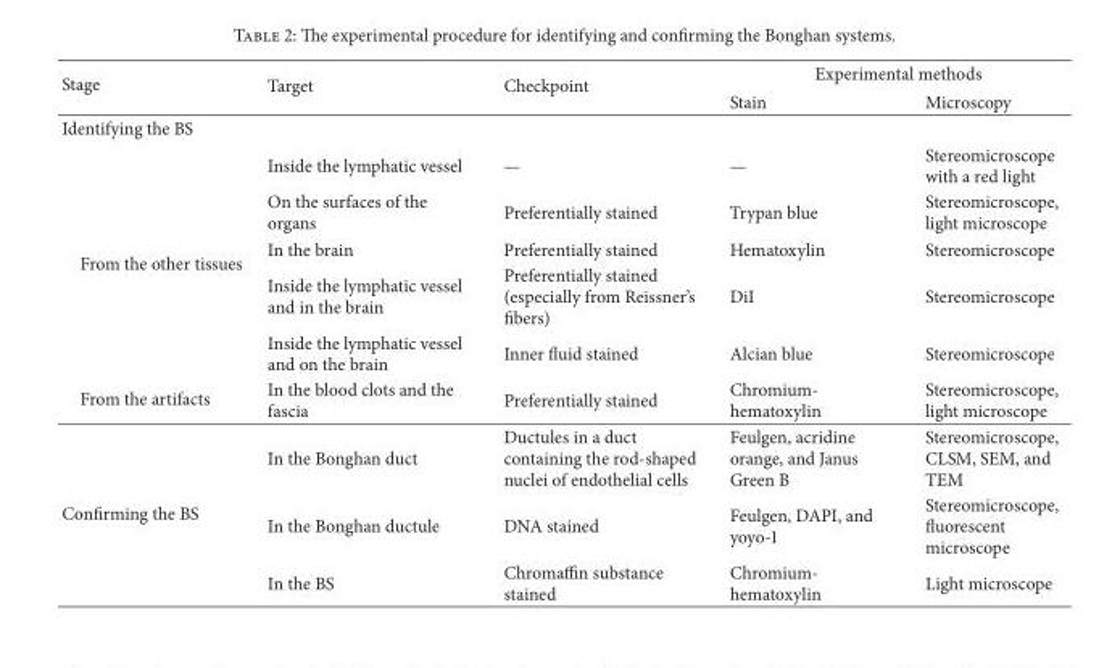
<table><thead><tr><td rowspan="2">Stage</td><td rowspan="2">Target</td><td rowspan="2">Checkpoint</td><td colspan="2">Experimental methods</td></tr><tr><td>Stain</td><td>Microscopy</td></tr></thead><tbody><tr><td colspan="5">Identifying the BS</td></tr><tr><td rowspan="5">From the other tissues</td><td>Inside the lymphatic vessel</td><td>—</td><td>—</td><td>Stereomicroscope with a red light</td></tr><tr><td>On the surfaces of the organs</td><td>Preferentially stained</td><td>Trypan blue</td><td>Stereomicroscope, light microscope</td></tr><tr><td>In the brain</td><td>Preferentially stained</td><td>Hematoxylin</td><td>Stereomicroscope</td></tr><tr><td>Inside the lymphatic vessel and in the brain</td><td>Preferentially stained (especially from Reissner’s fibers)</td><td>DiI</td><td>Stereomicroscope</td></tr><tr><td>Inside the lymphatic vessel and on the brain</td><td>Inner fluid stained</td><td>Alcian blue</td><td>Stereomicroscope</td></tr><tr><td>From the artifacts</td><td>In the blood clots and the fascia</td><td>Preferentially stained</td><td>Chromium- hematoxylin</td><td>Stereomicroscope, light microscope</td></tr><tr><td rowspan="3">Confirming the BS</td><td>In the Bonghan duct</td><td>Ductules in a duct containing the rod-shaped nuclei of endothelial cells</td><td>Feulgen, acridine orange, and Janus Green B</td><td>Stereomicroscope, CLSM, SEM, and TEM</td></tr><tr><td>In the Bonghan ductule</td><td>DNA stained</td><td>Feulgen, DAPI, and yoyo-1</td><td>Stereomicroscope, fluorescent microscope</td></tr><tr><td>In the BS</td><td>Chromaffin substance stained</td><td>Chromium- hematoxylin</td><td>Light microscope</td></tr></tbody></table>